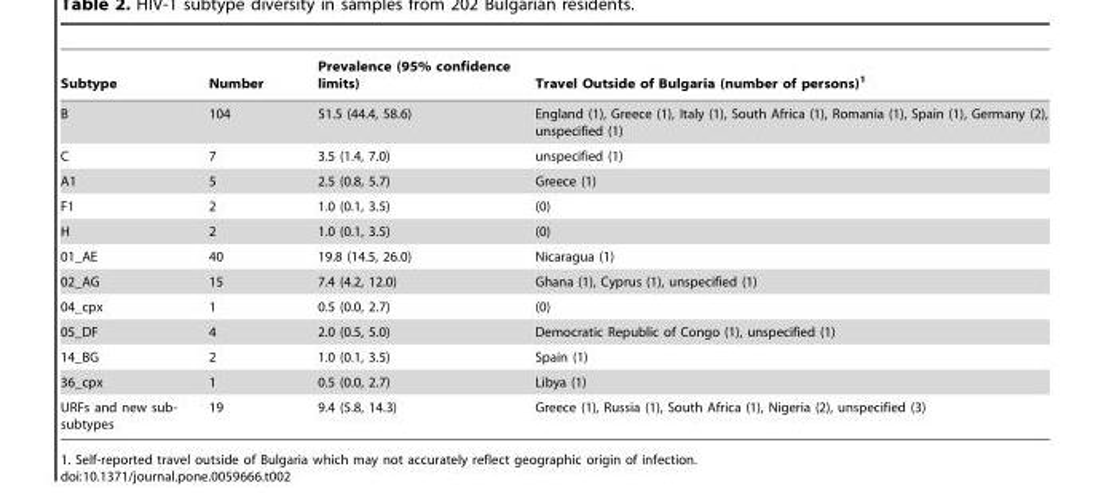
<table><thead><tr><td>Subtype</td><td>Number</td><td>Prevalence (95% confidence limits)</td><td>Travel Outside of Bulgaria (number of persons)<sup>1</sup></td></tr></thead><tbody><tr><td>B</td><td>104</td><td>51.5 (44.4, 58.6)</td><td>England (1), Greece (1), Italy (1), South Africa (1), Romania (1), Spain (1), Germany (2), unspecified (1)</td></tr><tr><td>C</td><td>7</td><td>3.5 (1.4, 7.0)</td><td>unspecified (1)</td></tr><tr><td>A1</td><td>5</td><td>2.5 (0.8, 5.7)</td><td>Greece (1)</td></tr><tr><td>F1</td><td>2</td><td>1.0 (0.1, 3.5)</td><td>(0)</td></tr><tr><td>H</td><td>2</td><td>1.0 (0.1, 3.5)</td><td>(0)</td></tr><tr><td>01_AE</td><td>40</td><td>19.8 (14.5, 26.0)</td><td>Nicaragua (1)</td></tr><tr><td>02_AG</td><td>15</td><td>7.4 (4.2, 12.0)</td><td>Ghana (1), Cyprus (1), unspecified (1)</td></tr><tr><td>04_cpx</td><td>1</td><td>0.5 (0.0, 2.7)</td><td>(0)</td></tr><tr><td>05_DF</td><td>4</td><td>2.0 (0.5, 5.0)</td><td>Democratic Republic of Congo (1), unspecified (1)</td></tr><tr><td>14_BG</td><td>2</td><td>1.0 (0.1, 3.5)</td><td>Spain (1)</td></tr><tr><td>36_cpx</td><td>1</td><td>0.5 (0.0, 2.7)</td><td>Libya (1)</td></tr><tr><td>URFs and new sub- subtypes</td><td>19</td><td>9.4 (5.8, 14.3)</td><td>Greece (1), Russia (1), South Africa (1), Nigeria (2), unspecified (3)</td></tr></tbody></table>